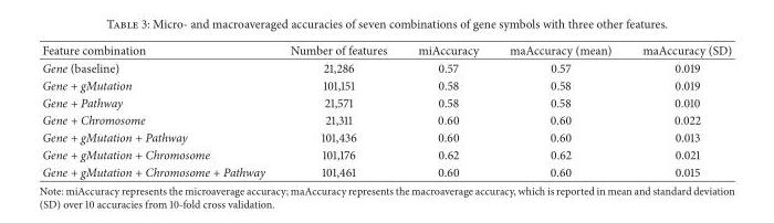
<table><thead><tr><td>Feature combination</td><td>Number of features</td><td>miAccuracy</td><td>maAccuracy (mean)</td><td>maAccuracy (SD)</td></tr></thead><tbody><tr><td>Gene (baseline)</td><td>21,286</td><td>0.57</td><td>0.57</td><td>0.019</td></tr><tr><td>Gene + gMutation</td><td>101,151</td><td>0.58</td><td>0.58</td><td>0.019</td></tr><tr><td>Gene + Pathway</td><td>21,571</td><td>0.58</td><td>0.58</td><td>0.010</td></tr><tr><td>Gene + Chromosome</td><td>21,311</td><td>0.60</td><td>0.60</td><td>0.022</td></tr><tr><td>Gene + gMutation + Pathway</td><td>101,436</td><td>0.60</td><td>0.60</td><td>0.013</td></tr><tr><td>Gene + gMutation + Chromosome</td><td>101,176</td><td>0.62</td><td>0.62</td><td>0.021</td></tr><tr><td>Gene + gMutation + Chromosome + Pathway</td><td>101,461</td><td>0.60</td><td>0.60</td><td>0.015</td></tr></tbody></table>